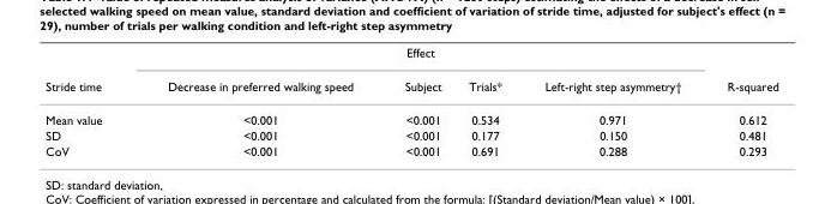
<table><thead><tr><td rowspan="2">Stride time</td><td colspan="4">Effect</td><td rowspan="2">R-squared</td></tr><tr><td>Decrease in preferred walking speed</td><td>Subject</td><td>Trials*</td><td>Left-right step asymmetry†</td></tr></thead><tbody><tr><td>Mean value</td><td>&lt;0.001</td><td>&lt;0.001</td><td>0.534</td><td>0.971</td><td>0.612</td></tr><tr><td>SD</td><td>&lt;0.001</td><td>&lt;0.001</td><td>0.177</td><td>0.150</td><td>0.481</td></tr><tr><td>CoV</td><td>&lt;0.001</td><td>&lt;0.001</td><td>0.691</td><td>0.288</td><td>0.293</td></tr></tbody></table>